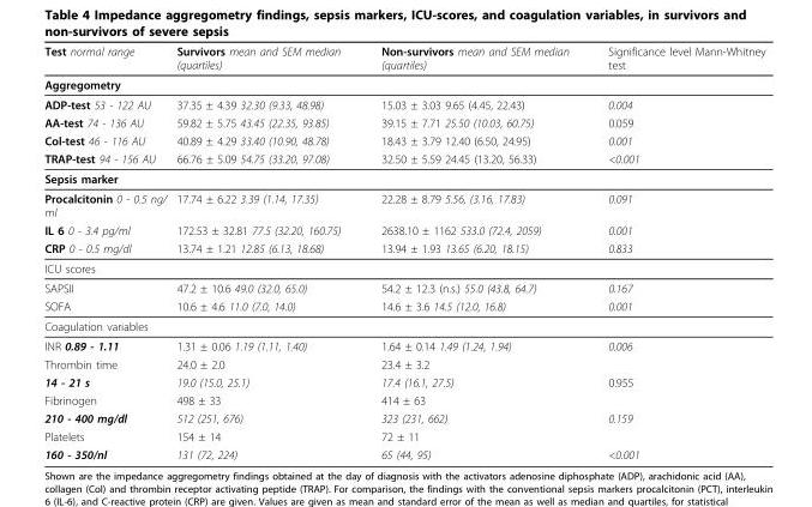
<table><thead><tr><td>Test normal range</td><td>Survivors mean and SEM median (quartiles)</td><td>Non-survivors mean and SEM median (quartiles)</td><td>Significance level Mann-Whitney test</td></tr></thead><tbody><tr><td colspan="4">Aggregometry</td></tr><tr><td>ADP-test 53 - 122 AU</td><td>37.35 ± 4.39 32.30 (9.33, 48.98)</td><td>15.03 ± 3.03 9.65 (4.45, 22.43)</td><td>0.004</td></tr><tr><td>AA-test 74 - 136 AU</td><td>59.82 ± 5.75 43.45 (22.35, 93.85)</td><td>39.15 ± 7.71 25.50 (10.03, 60.75)</td><td>0.059</td></tr><tr><td>Col-test 46 - 116 AU</td><td>40.89 ± 4.29 33.40 (10.90, 48.78)</td><td>18.43 ± 3.79 12.40 (6.50, 24.95)</td><td>0.001</td></tr><tr><td>TRAP-test 94 - 156 AU</td><td>66.76 ± 5.09 54.75 (33.20, 97.08)</td><td>32.50 ± 5.59 24.45 (13.20, 56.33)</td><td>&lt;0.001</td></tr><tr><td colspan="4">Sepsis marker</td></tr><tr><td>Procalcitonin 0 - 0.5 ng/ ml</td><td>17.74 ± 6.22 3.39 (1.14, 17.35)</td><td>22.28 ± 8.79 5.56, (3.16, 17.83)</td><td>0.091</td></tr><tr><td>IL 6 0 - 3.4 pg/ml</td><td>172.53 ± 32.81 77.5 (32.20, 160.75)</td><td>2638.10 ± 1162 533.0 (72.4, 2059)</td><td>0.001</td></tr><tr><td>CRP 0 - 0.5 mg/dl</td><td>13.74 ± 1.21 12.85 (6.13, 18.68)</td><td>13.94 ± 1.93 13.65 (6.20, 18.15)</td><td>0.833</td></tr><tr><td colspan="4">ICU scores</td></tr><tr><td>SAPSII</td><td>47.2 ± 10.6 49.0 (32.0, 65.0)</td><td>54.2 ± 12.3 (n.s.) 55.0 (43.8, 64.7)</td><td>0.167</td></tr><tr><td>SOFA</td><td>10.6 ± 4.6 11.0 (7.0, 14.0)</td><td>14.6 ± 3.6 14.5 (12.0, 16.8)</td><td>0.001</td></tr><tr><td colspan="4">Coagulation variables</td></tr><tr><td>INR 0.89 - 1.11</td><td>1.31 ± 0.06 1.19 (1.11, 1.40)</td><td>1.64 ± 0.14 1.49 (1.24, 1.94)</td><td>0.006</td></tr><tr><td>Thrombin time</td><td>24.0 ± 2.0</td><td>23.4 ± 3.2</td><td></td></tr><tr><td>14 - 21 s</td><td>19.0 (15.0, 25.1)</td><td>17.4 (16.1, 27.5)</td><td>0.955</td></tr><tr><td>Fibrinogen</td><td>498 ± 33</td><td>414 ± 63</td><td></td></tr><tr><td>210 - 400 mg/dl</td><td>512 (251, 676)</td><td>323 (231, 662)</td><td>0.159</td></tr><tr><td>Platelets</td><td>154 ± 14</td><td>72 ± 11</td><td></td></tr><tr><td>160 - 350/nl</td><td>131 (72, 224)</td><td>65 (44, 95)</td><td>&lt;0.001</td></tr></tbody></table>